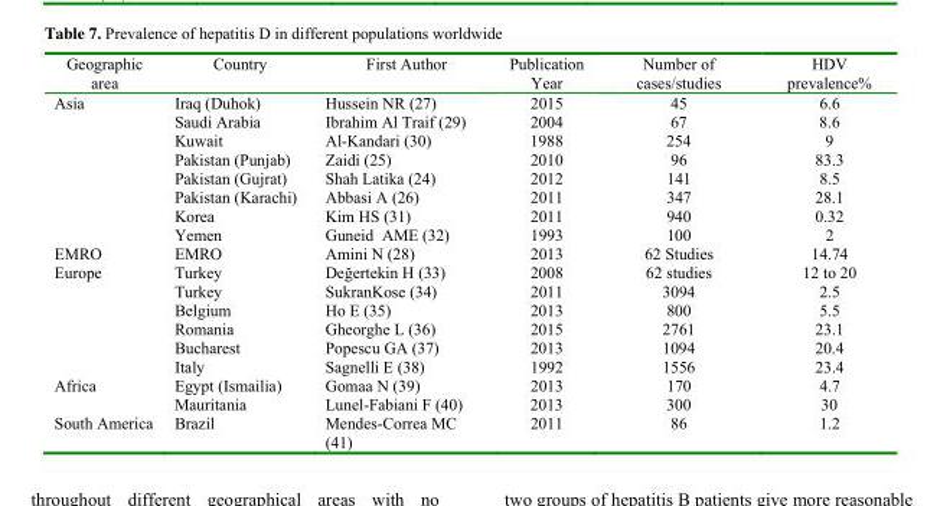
<table><thead><tr><td>Geographic area</td><td>Country</td><td>First Author</td><td>Publication Year</td><td>Number of cases/studies</td><td>HDV prevalence%</td></tr></thead><tbody><tr><td rowspan="8">Asia</td><td>Iraq (Duhok)</td><td>Hussein NR (27)</td><td>2015</td><td>45</td><td>6.6</td></tr><tr><td>Saudi Arabia</td><td>Ibrahim Al Traif (29)</td><td>2004</td><td>67</td><td>8.6</td></tr><tr><td>Kuwait</td><td>Al-Kandari (30)</td><td>1988</td><td>254</td><td>9</td></tr><tr><td>Pakistan (Punjab)</td><td>Zaidi (25)</td><td>2010</td><td>96</td><td>83.3</td></tr><tr><td>Pakistan (Gujrat)</td><td>Shah Latika (24)</td><td>2012</td><td>141</td><td>8.5</td></tr><tr><td>Pakistan (Karachi)</td><td>Abbasi A (26)</td><td>2011</td><td>347</td><td>28.1</td></tr><tr><td>Korea</td><td>Kim HS (31)</td><td>2011</td><td>940</td><td>0.32</td></tr><tr><td>Yemen</td><td>Guneid AME (32)</td><td>1993</td><td>100</td><td>2</td></tr><tr><td>EMRO</td><td>EMRO</td><td>Amini N (28)</td><td>2013</td><td>62 Studies</td><td>14.74</td></tr><tr><td rowspan="6">Europe</td><td>Turkey</td><td>Değertekin H (33)</td><td>2008</td><td>62 studies</td><td>12 to 20</td></tr><tr><td>Turkey</td><td>SukranKose (34)</td><td>2011</td><td>3094</td><td>2.5</td></tr><tr><td>Belgium</td><td>Ho E (35)</td><td>2013</td><td>800</td><td>5.5</td></tr><tr><td>Romania</td><td>Gheorghe L (36)</td><td>2015</td><td>2761</td><td>23.1</td></tr><tr><td>Bucharest</td><td>Popescu GA (37)</td><td>2013</td><td>1094</td><td>20.4</td></tr><tr><td>Italy</td><td>Sagnelli E (38)</td><td>1992</td><td>1556</td><td>23.4</td></tr><tr><td rowspan="2">Africa</td><td>Egypt (Ismailia)</td><td>Gomaa N (39)</td><td>2013</td><td>170</td><td>4.7</td></tr><tr><td>Mauritania</td><td>Lunel-Fabiani F (40)</td><td>2013</td><td>300</td><td>30</td></tr><tr><td>South America</td><td>Brazil</td><td>Mendes-Correa MC (41)</td><td>2011</td><td>86</td><td>1.2</td></tr></tbody></table>